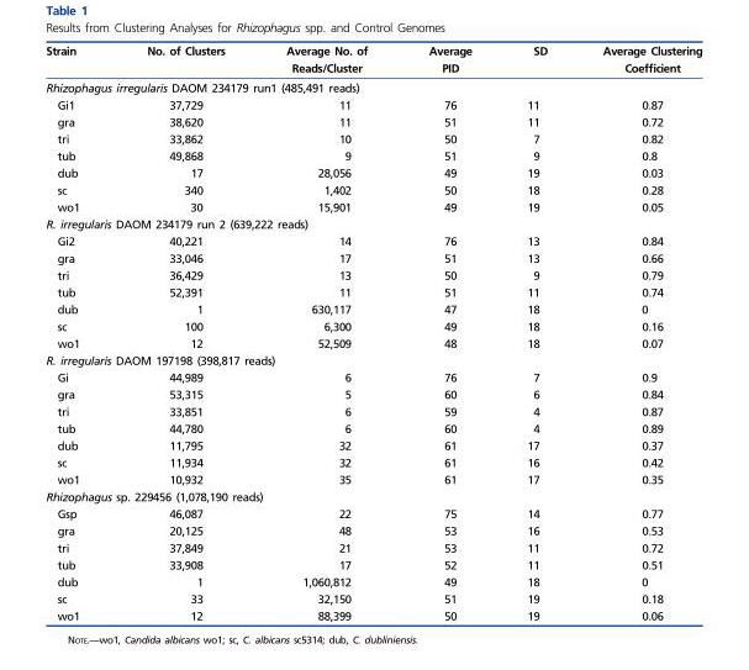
<table><thead><tr><td>Strain</td><td>No. of Clusters</td><td>Average No. of Reads/Cluster</td><td>Average PID</td><td>SD</td><td>Average Clustering Coefficient</td></tr></thead><tbody><tr><td colspan="6">Rhizophagus irregularis DAOM 234179 run1 (485,491 reads)</td></tr><tr><td>Gi1</td><td>37,729</td><td>11</td><td>76</td><td>11</td><td>0.87</td></tr><tr><td>gra</td><td>38,620</td><td>11</td><td>51</td><td>11</td><td>0.72</td></tr><tr><td>tri</td><td>33,862</td><td>10</td><td>50</td><td>7</td><td>0.82</td></tr><tr><td>tub</td><td>49,868</td><td>9</td><td>51</td><td>9</td><td>0.8</td></tr><tr><td>dub</td><td>17</td><td>28,056</td><td>49</td><td>19</td><td>0.03</td></tr><tr><td>sc</td><td>340</td><td>1,402</td><td>50</td><td>18</td><td>0.28</td></tr><tr><td>wo1</td><td>30</td><td>15,901</td><td>49</td><td>19</td><td>0.05</td></tr><tr><td colspan="6">R. irregularis DAOM 234179 run 2 (639,222 reads)</td></tr><tr><td>Gi2</td><td>40,221</td><td>14</td><td>76</td><td>13</td><td>0.84</td></tr><tr><td>gra</td><td>33,046</td><td>17</td><td>51</td><td>13</td><td>0.66</td></tr><tr><td>tri</td><td>36,429</td><td>13</td><td>50</td><td>9</td><td>0.79</td></tr><tr><td>tub</td><td>52,391</td><td>11</td><td>51</td><td>11</td><td>0.74</td></tr><tr><td>dub</td><td>1</td><td>630,117</td><td>47</td><td>18</td><td>0</td></tr><tr><td>sc</td><td>100</td><td>6,300</td><td>49</td><td>18</td><td>0.16</td></tr><tr><td>wo1</td><td>12</td><td>52,509</td><td>48</td><td>18</td><td>0.07</td></tr><tr><td colspan="6">R. irregularis DAOM 197198 (398,817 reads)</td></tr><tr><td>Gi</td><td>44,989</td><td>6</td><td>76</td><td>7</td><td>0.9</td></tr><tr><td>gra</td><td>53,315</td><td>5</td><td>60</td><td>6</td><td>0.84</td></tr><tr><td>tri</td><td>33,851</td><td>6</td><td>59</td><td>4</td><td>0.87</td></tr><tr><td>tub</td><td>44,780</td><td>6</td><td>60</td><td>4</td><td>0.89</td></tr><tr><td>dub</td><td>11,795</td><td>32</td><td>61</td><td>17</td><td>0.37</td></tr><tr><td>sc</td><td>11,934</td><td>32</td><td>61</td><td>16</td><td>0.42</td></tr><tr><td>wo1</td><td>10,932</td><td>35</td><td>61</td><td>17</td><td>0.35</td></tr><tr><td colspan="6">Rhizophagus sp. 229456 (1,078,190 reads)</td></tr><tr><td>Gsp</td><td>46,087</td><td>22</td><td>75</td><td>14</td><td>0.77</td></tr><tr><td>gra</td><td>20,125</td><td>48</td><td>53</td><td>16</td><td>0.53</td></tr><tr><td>tri</td><td>37,849</td><td>21</td><td>53</td><td>11</td><td>0.72</td></tr><tr><td>tub</td><td>33,908</td><td>17</td><td>52</td><td>11</td><td>0.51</td></tr><tr><td>dub</td><td>1</td><td>1,060,812</td><td>49</td><td>18</td><td>0</td></tr><tr><td>sc</td><td>33</td><td>32,150</td><td>51</td><td>19</td><td>0.18</td></tr><tr><td>wo1</td><td>12</td><td>88,399</td><td>50</td><td>19</td><td>0.06</td></tr></tbody></table>